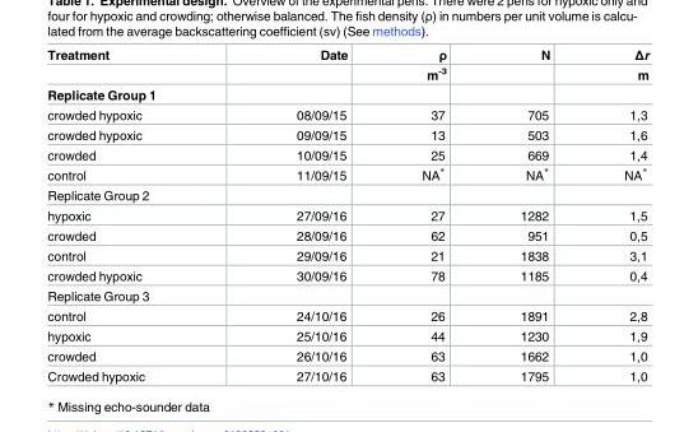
<table><thead><tr><td rowspan="3">Treatment Replicate Group 1</td><td rowspan="3">Date</td><td rowspan="3">ρ m<sup>-3</sup></td><td rowspan="3">N</td><td rowspan="3">Δr m</td></tr><tr></tr><tr></tr></thead><tbody><tr><td>crowded hypoxic</td><td>08/09/15</td><td>37</td><td>705</td><td>1,3</td></tr><tr><td>crowded hypoxic</td><td>09/09/15</td><td>13</td><td>503</td><td>1,6</td></tr><tr><td>crowded</td><td>10/09/15</td><td>25</td><td>669</td><td>1,4</td></tr><tr><td>control</td><td>11/09/15</td><td>NA*</td><td>NA*</td><td>NA*</td></tr><tr><td colspan="5">Replicate Group 2</td></tr><tr><td>hypoxic</td><td>27/09/16</td><td>27</td><td>1282</td><td>1,5</td></tr><tr><td>crowded</td><td>28/09/16</td><td>62</td><td>951</td><td>0,5</td></tr><tr><td>control</td><td>29/09/16</td><td>21</td><td>1838</td><td>3,1</td></tr><tr><td>crowded hypoxic</td><td>30/09/16</td><td>78</td><td>1185</td><td>0,4</td></tr><tr><td colspan="5">Replicate Group 3</td></tr><tr><td>control</td><td>24/10/16</td><td>26</td><td>1891</td><td>2,8</td></tr><tr><td>hypoxic</td><td>25/10/16</td><td>44</td><td>1230</td><td>1,9</td></tr><tr><td>crowded</td><td>26/10/16</td><td>63</td><td>1662</td><td>1,0</td></tr><tr><td>Crowded hypoxic</td><td>27/10/16</td><td>63</td><td>1795</td><td>1,0</td></tr></tbody></table>